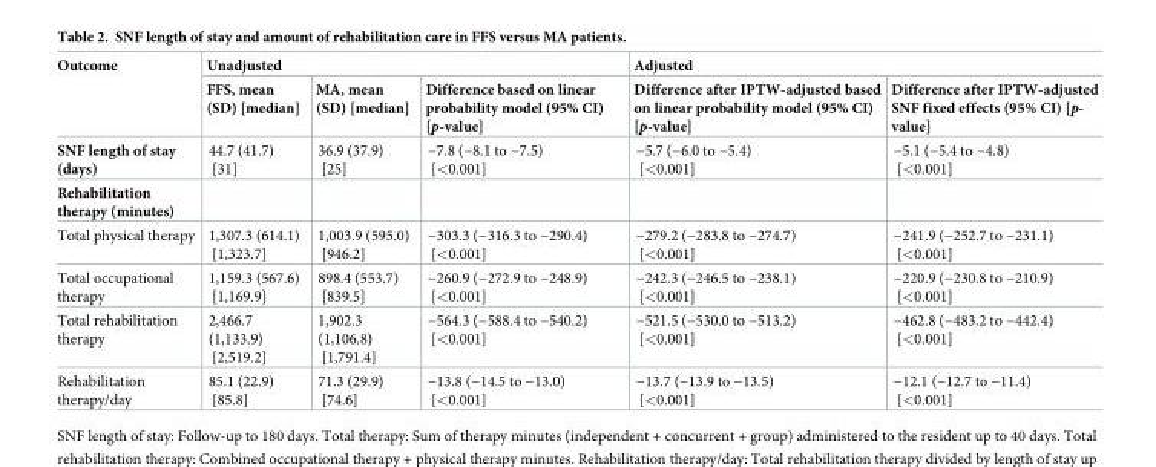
<table><thead><tr><td rowspan="2">Outcome</td><td colspan="3">Unadjusted</td><td colspan="2">Adjusted</td></tr><tr><td>FFS, mean (SD) [median]</td><td>MA, mean (SD) [median]</td><td>Difference based on linear probability model (95% CI) [p-value]</td><td>Difference after IPTW-adjusted based on linear probability model (95% CI) [p-value]</td><td>Difference after IPTW-adjusted SNF fixed effects (95% CI) [p- value]</td></tr></thead><tbody><tr><td>SNF length of stay (days)</td><td>44.7 (41.7) [31]</td><td>36.9 (37.9) [25]</td><td>−7.8 (−8.1 to −7.5) [&lt;0.001]</td><td>−5.7 (−6.0 to −5.4) [&lt;0.001]</td><td>−5.1 (−5.4 to −4.8) [&lt;0.001]</td></tr><tr><td colspan="6">Rehabilitation therapy (minutes)</td></tr><tr><td>Total physical therapy</td><td>1,307.3 (614.1) [1,323.7]</td><td>1,003.9 (595.0) [946.2]</td><td>−303.3 (−316.3 to −290.4) [&lt;0.001]</td><td>−279.2 (−283.8 to −274.7) [&lt;0.001]</td><td>−241.9 (−252.7 to −231.1) [&lt;0.001]</td></tr><tr><td>Total occupational therapy</td><td>1,159.3 (567.6) [1,169.9]</td><td>898.4 (553.7) [839.5]</td><td>−260.9 (−272.9 to −248.9) [&lt;0.001]</td><td>−242.3 (−246.5 to −238.1) [&lt;0.001]</td><td>−220.9 (−230.8 to −210.9) [&lt;0.001]</td></tr><tr><td>Total rehabilitation therapy</td><td>2,466.7 (1,133.9) [2,519.2]</td><td>1,902.3 (1,106.8) [1,791.4]</td><td>−564.3 (−588.4 to −540.2) [&lt;0.001]</td><td>−521.5 (−530.0 to −513.2) [&lt;0.001]</td><td>−462.8 (−483.2 to −442.4) [&lt;0.001]</td></tr><tr><td>Rehabilitation therapy/day</td><td>85.1 (22.9) [85.8]</td><td>71.3 (29.9) [74.6]</td><td>−13.8 (−14.5 to −13.0) [&lt;0.001]</td><td>−13.7 (−13.9 to −13.5) [&lt;0.001]</td><td>−12.1 (−12.7 to −11.4) [&lt;0.001]</td></tr></tbody></table>